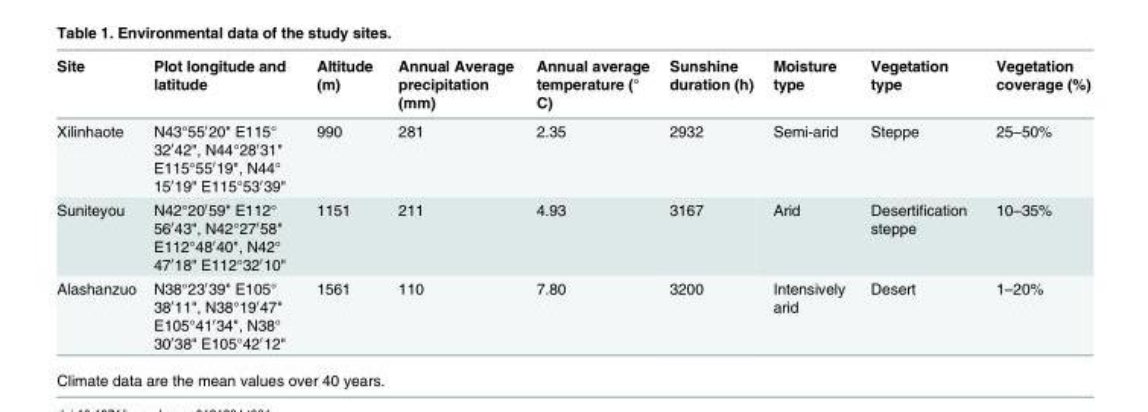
<table><thead><tr><td>Site</td><td>Plot longitude and latitude</td><td>Altitude (m)</td><td>Annual Average precipitation (mm)</td><td>Annual average temperature (° C)</td><td>Sunshine duration (h)</td><td>Moisture type</td><td>Vegetation type</td><td>Vegetation coverage (%)</td></tr></thead><tbody><tr><td>Xilinhaote</td><td>N43°55′20&quot; E115° 32′42&quot;, N44°28′31&quot; E115°55′19&quot;, N44° 15′19&quot; E115°53′39&quot;</td><td>990</td><td>281</td><td>2.35</td><td>2932</td><td>Semi-arid</td><td>Steppe</td><td>25–50%</td></tr><tr><td>Suniteyou</td><td>N42°20′59&quot; E112° 56′43&quot;, N42°27′58&quot; E112°48′40&quot;, N42° 47′18&quot; E112°32′10&quot;</td><td>1151</td><td>211</td><td>4.93</td><td>3167</td><td>Arid</td><td>Desertification steppe</td><td>10–35%</td></tr><tr><td>Alashanzuo</td><td>N38°23′39&quot; E105° 38′11&quot;, N38°19′47&quot; E105°41′34&quot;, N38° 30′38&quot; E105°42′12&quot;</td><td>1561</td><td>110</td><td>7.80</td><td>3200</td><td>Intensively arid</td><td>Desert</td><td>1–20%</td></tr></tbody></table>